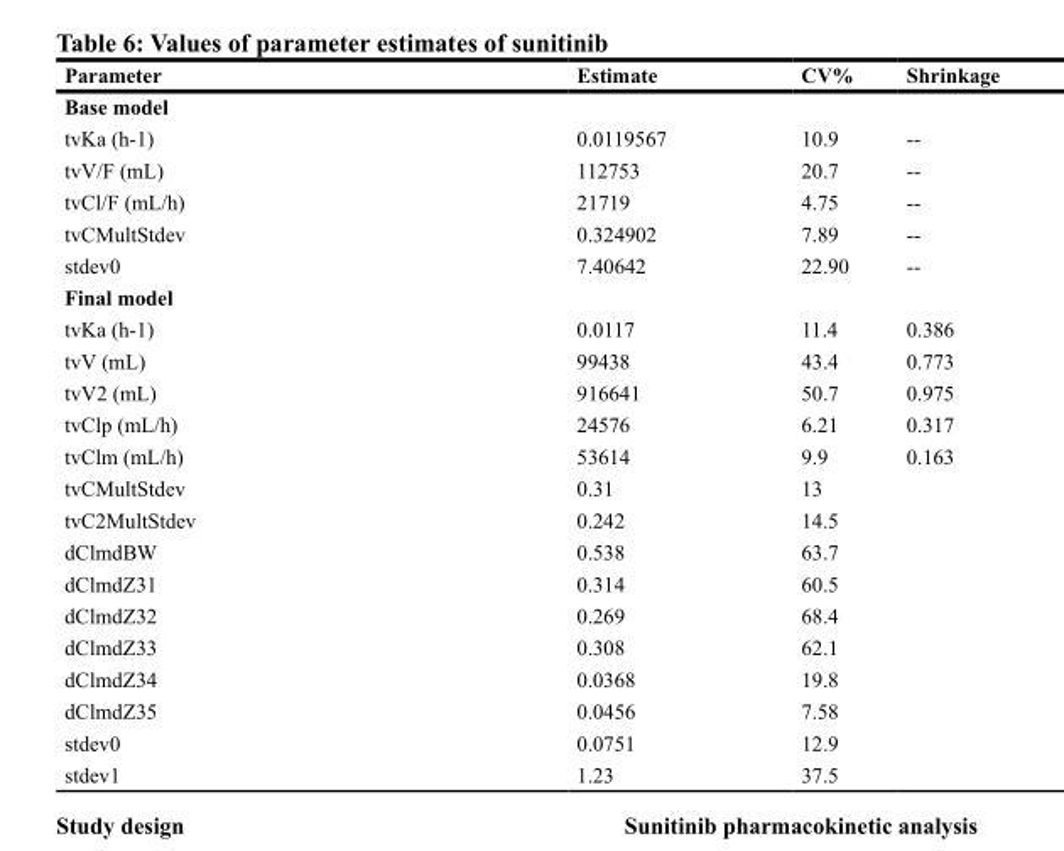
<table><thead><tr><td>Parameter</td><td>Estimate</td><td>CV%</td><td>Shrinkage</td></tr></thead><tbody><tr><td colspan="4">Base model</td></tr><tr><td>tvKa (h-1)</td><td>0.0119567</td><td>10.9</td><td>--</td></tr><tr><td>tvV/F (mL)</td><td>112753</td><td>20.7</td><td>--</td></tr><tr><td>tvCl/F (mL/h)</td><td>21719</td><td>4.75</td><td>--</td></tr><tr><td>tvCMultStdev</td><td>0.324902</td><td>7.89</td><td>--</td></tr><tr><td>stdev0</td><td>7.40642</td><td>22.90</td><td>--</td></tr><tr><td colspan="4">Final model</td></tr><tr><td>tvKa (h-1)</td><td>0.0117</td><td>11.4</td><td>0.386</td></tr><tr><td>tvV (mL)</td><td>99438</td><td>43.4</td><td>0.773</td></tr><tr><td>tvV2 (mL)</td><td>916641</td><td>50.7</td><td>0.975</td></tr><tr><td>tvClp (mL/h)</td><td>24576</td><td>6.21</td><td>0.317</td></tr><tr><td>tvClm (mL/h)</td><td>53614</td><td>9.9</td><td>0.163</td></tr><tr><td>tvCMultStdev</td><td>0.31</td><td>13</td><td></td></tr><tr><td>tvC2MultStdev</td><td>0.242</td><td>14.5</td><td></td></tr><tr><td>dClmdBW</td><td>0.538</td><td>63.7</td><td></td></tr><tr><td>dClmdZ31</td><td>0.314</td><td>60.5</td><td></td></tr><tr><td>dClmdZ32</td><td>0.269</td><td>68.4</td><td></td></tr><tr><td>dClmdZ33</td><td>0.308</td><td>62.1</td><td></td></tr><tr><td>dClmdZ34</td><td>0.0368</td><td>19.8</td><td></td></tr><tr><td>dClmdZ35</td><td>0.0456</td><td>7.58</td><td></td></tr><tr><td>stdev0</td><td>0.0751</td><td>12.9</td><td></td></tr><tr><td>stdev1</td><td>1.23</td><td>37.5</td><td></td></tr></tbody></table>